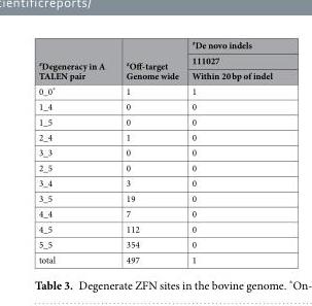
<table><thead><tr><td rowspan="3"><sup>#</sup>Degeneracy in A TALEN pair</td><td rowspan="3"><sup>#</sup>Off-target Genome wide</td><td rowspan="3"><sup>#</sup>De novo indels 111027 Within 20 bp of indel</td></tr><tr></tr><tr></tr></thead><tbody><tr><td>0_0*</td><td>1</td><td>1</td></tr><tr><td>1_4</td><td>0</td><td>0</td></tr><tr><td>1_5</td><td>0</td><td>0</td></tr><tr><td>2_4</td><td>1</td><td>0</td></tr><tr><td>3_3</td><td>0</td><td>0</td></tr><tr><td>2_5</td><td>0</td><td>0</td></tr><tr><td>3_4</td><td>3</td><td>0</td></tr><tr><td>3_5</td><td>19</td><td>0</td></tr><tr><td>4_4</td><td>7</td><td>0</td></tr><tr><td>4_5</td><td>112</td><td>0</td></tr><tr><td>5_5</td><td>354</td><td>0</td></tr><tr><td>total</td><td>497</td><td>1</td></tr></tbody></table>